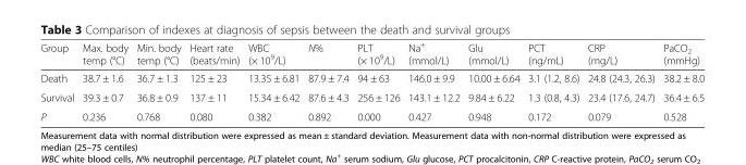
<table><thead><tr><td>Group</td><td>Max. body temp (°C)</td><td>Min. body temp (°C)</td><td>Heart rate (beats/min)</td><td>WBC (× 10<sup>9</sup>/L)</td><td>N%</td><td>PLT (× 10<sup>9</sup>/L)</td><td>Na<sup>+</sup> (mmol/L)</td><td>Glu (mmol/L)</td><td>PCT (ng/mL)</td><td>CRP (mg/L)</td><td>PaCO<sub>2</sub> (mmHg)</td></tr></thead><tbody><tr><td>Death</td><td>38.7 ± 1.6</td><td>36.7 ± 1.3</td><td>125 ± 23</td><td>13.35 ± 6.81</td><td>87.9 ± 7.4</td><td>94 ± 63</td><td>146.0 ± 9.9</td><td>10.00 ± 6.64</td><td>3.1 (1.2, 8.6)</td><td>24.8 (24.3, 26.3)</td><td>38.2 ± 8.0</td></tr><tr><td>Survival</td><td>39.3 ± 0.7</td><td>36.8 ± 0.9</td><td>137 ± 11</td><td>15.34 ± 6.42</td><td>87.6 ± 4.3</td><td>256 ± 126</td><td>143.1 ± 12.2</td><td>9.84 ± 6.22</td><td>1.3 (0.8, 4.3)</td><td>23.4 (17.6, 24.7)</td><td>36.4 ± 6.5</td></tr><tr><td>P</td><td>0.236</td><td>0.768</td><td>0.080</td><td>0.382</td><td>0.892</td><td>0.000</td><td>0.427</td><td>0.948</td><td>0.172</td><td>0.079</td><td>0.528</td></tr></tbody></table>